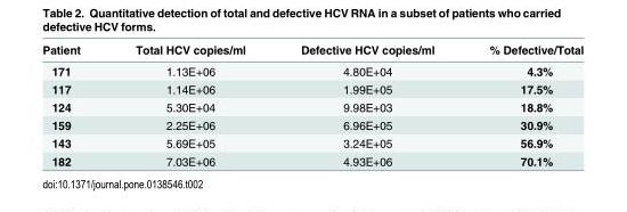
<table><thead><tr><td>Patient</td><td>Total HCV copies/ml</td><td>Defective HCV copies/ml</td><td>% Defective/Total</td></tr></thead><tbody><tr><td>171</td><td>1.13E+06</td><td>4.80E+04</td><td>4.3%</td></tr><tr><td>117</td><td>1.14E+06</td><td>1.99E+05</td><td>17.5%</td></tr><tr><td>124</td><td>5.30E+04</td><td>9.98E+03</td><td>18.8%</td></tr><tr><td>159</td><td>2.25E+06</td><td>6.96E+05</td><td>30.9%</td></tr><tr><td>143</td><td>5.69E+05</td><td>3.24E+05</td><td>56.9%</td></tr><tr><td>182</td><td>7.03E+06</td><td>4.93E+06</td><td>70.1%</td></tr></tbody></table>